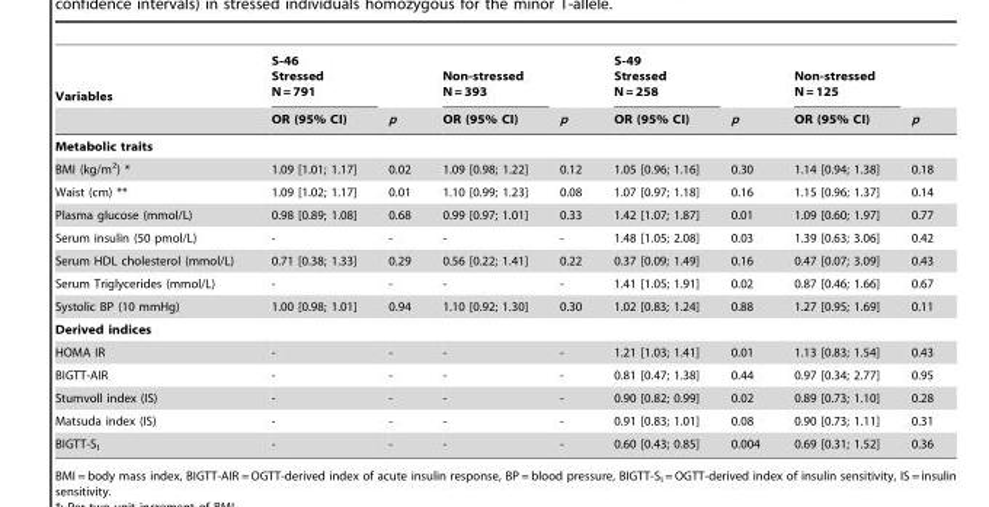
<table><thead><tr><td rowspan="2">Variables</td><td rowspan="2">S-46 Stressed N = 791 OR (95% CI)</td><td rowspan="2">p</td><td rowspan="2">Non-stressed N = 393 OR (95% CI)</td><td rowspan="2">p</td><td rowspan="2">S-49 Stressed N = 258 OR (95% CI)</td><td rowspan="2">p</td><td rowspan="2">Non-stressed N = 125 OR (95% CI)</td><td rowspan="2">p</td></tr><tr></tr></thead><tbody><tr><td colspan="9">Metabolic traits</td></tr><tr><td>BMI (kg/m<sup>2</sup>) *</td><td>1.09 [1.01; 1.17]</td><td>0.02</td><td>1.09 [0.98; 1.22]</td><td>0.12</td><td>1.05 [0.96; 1.16]</td><td>0.30</td><td>1.14 [0.94; 1.38]</td><td>0.18</td></tr><tr><td>Waist (cm) **</td><td>1.09 [1.02; 1.17]</td><td>0.01</td><td>1.10 [0.99; 1.23]</td><td>0.08</td><td>1.07 [0.97; 1.18]</td><td>0.16</td><td>1.15 [0.96; 1.37]</td><td>0.14</td></tr><tr><td>Plasma glucose (mmol/L)</td><td>0.98 [0.89; 1.08]</td><td>0.68</td><td>0.99 [0.97; 1.01]</td><td>0.33</td><td>1.42 [1.07; 1.87]</td><td>0.01</td><td>1.09 [0.60; 1.97]</td><td>0.77</td></tr><tr><td>Serum insulin (50 pmol/L)</td><td>-</td><td>-</td><td>-</td><td>-</td><td>1.48 [1.05; 2.08]</td><td>0.03</td><td>1.39 [0.63; 3.06]</td><td>0.42</td></tr><tr><td>Serum HDL cholesterol (mmol/L)</td><td>0.71 [0.38; 1.33]</td><td>0.29</td><td>0.56 [0.22; 1.41]</td><td>0.22</td><td>0.37 [0.09; 1.49]</td><td>0.16</td><td>0.47 [0.07; 3.09]</td><td>0.43</td></tr><tr><td>Serum Triglycerides (mmol/L)</td><td>-</td><td>-</td><td>-</td><td>-</td><td>1.41 [1.05; 1.91]</td><td>0.02</td><td>0.87 [0.46; 1.66]</td><td>0.67</td></tr><tr><td>Systolic BP (10 mmHg)</td><td>1.00 [0.98; 1.01]</td><td>0.94</td><td>1.10 [0.92; 1.30]</td><td>0.30</td><td>1.02 [0.83; 1.24]</td><td>0.88</td><td>1.27 [0.95; 1.69]</td><td>0.11</td></tr><tr><td colspan="9">Derived indices</td></tr><tr><td>HOMA IR</td><td>-</td><td>-</td><td>-</td><td>-</td><td>1.21 [1.03; 1.41]</td><td>0.01</td><td>1.13 [0.83; 1.54]</td><td>0.43</td></tr><tr><td>BIGTT-AIR</td><td>-</td><td>-</td><td>-</td><td>-</td><td>0.81 [0.47; 1.38]</td><td>0.44</td><td>0.97 [0.34; 2.77]</td><td>0.95</td></tr><tr><td>Stumvoll index (IS)</td><td>-</td><td>-</td><td>-</td><td>-</td><td>0.90 [0.82; 0.99]</td><td>0.02</td><td>0.89 [0.73; 1.10]</td><td>0.28</td></tr><tr><td>Matsuda index (IS)</td><td>-</td><td>-</td><td>-</td><td>-</td><td>0.91 [0.83; 1.01]</td><td>0.08</td><td>0.90 [0.73; 1.11]</td><td>0.31</td></tr><tr><td>BIGTT-S<sub>I</sub></td><td>-</td><td>-</td><td>-</td><td>-</td><td>0.60 [0.43; 0.85]</td><td>0.004</td><td>0.69 [0.31; 1.52]</td><td>0.36</td></tr></tbody></table>